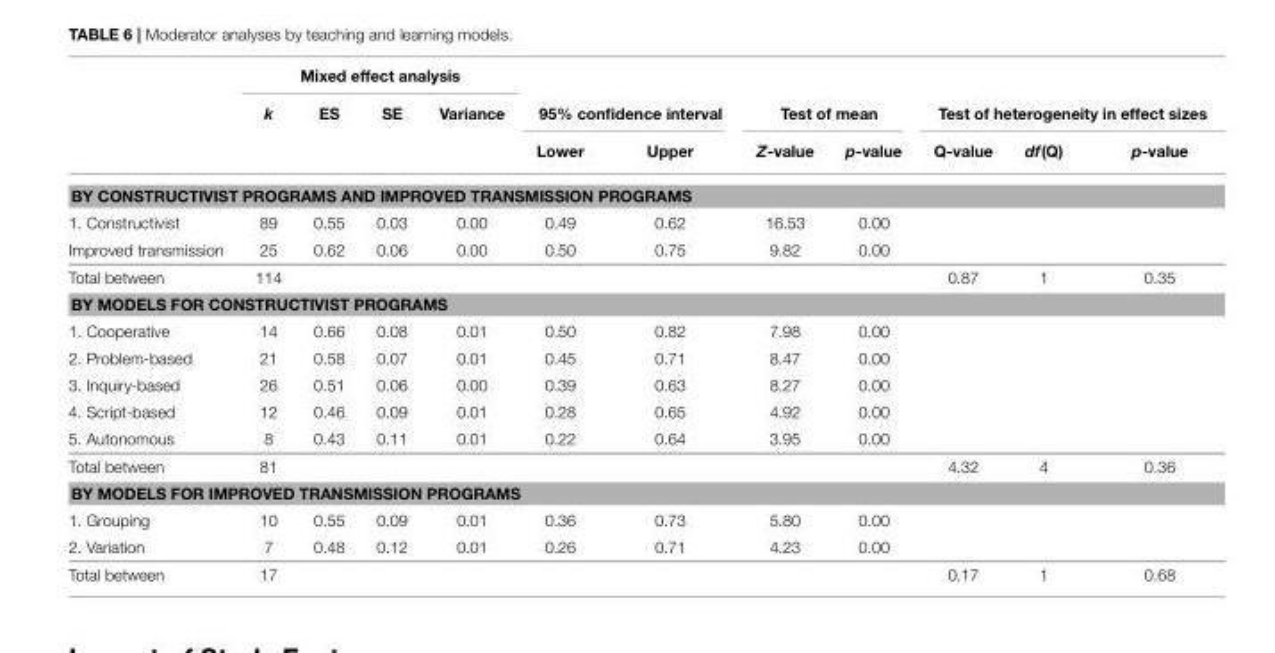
<table><thead><tr><td rowspan="3"></td><td colspan="4">Mixed effect analysis</td><td></td><td></td><td></td><td></td><td></td><td></td><td></td></tr><tr><td rowspan="2">k</td><td rowspan="2">ES</td><td rowspan="2">SE</td><td rowspan="2">Variance</td><td colspan="2">95% confidence interval</td><td colspan="2">Test of mean</td><td colspan="3">Test of heterogeneity in effect sizes</td></tr><tr><td>Lower</td><td>Upper</td><td>Z-value</td><td>p-value</td><td>Q-value</td><td>df(Q)</td><td>p-value</td></tr></thead><tbody><tr><td colspan="12">BY CONSTRUCTIVIST PROGRAMS AND IMPROVED TRANSMISSION PROGRAMS</td></tr><tr><td>1. Constructivist</td><td>89</td><td>0.55</td><td>0.03</td><td>0.00</td><td>0.49</td><td>0.62</td><td>16.53</td><td>0.00</td><td></td><td></td><td></td></tr><tr><td>Improved transmission</td><td>25</td><td>0.62</td><td>0.06</td><td>0.00</td><td>0.50</td><td>0.75</td><td>9.82</td><td>0.00</td><td></td><td></td><td></td></tr><tr><td>Total between</td><td>114</td><td></td><td></td><td></td><td></td><td></td><td></td><td></td><td>0.87</td><td>1</td><td>0.35</td></tr><tr><td colspan="12">BY MODELS FOR CONSTRUCTIVIST PROGRAMS</td></tr><tr><td>1. Cooperative</td><td>14</td><td>0.66</td><td>0.08</td><td>0.01</td><td>0.50</td><td>0.82</td><td>7.98</td><td>0.00</td><td></td><td></td><td></td></tr><tr><td>2. Problem-based</td><td>21</td><td>0.58</td><td>0.07</td><td>0.01</td><td>0.45</td><td>0.71</td><td>8.47</td><td>0.00</td><td></td><td></td><td></td></tr><tr><td>3. Inquiry-based</td><td>26</td><td>0.51</td><td>0.06</td><td>0.00</td><td>0.39</td><td>0.63</td><td>8.27</td><td>0.00</td><td></td><td></td><td></td></tr><tr><td>4. Script-based</td><td>12</td><td>0.46</td><td>0.09</td><td>0.01</td><td>0.28</td><td>0.65</td><td>4.92</td><td>0.00</td><td></td><td></td><td></td></tr><tr><td>5. Autonomous</td><td>8</td><td>0.43</td><td>0.11</td><td>0.01</td><td>0.22</td><td>0.64</td><td>3.95</td><td>0.00</td><td></td><td></td><td></td></tr><tr><td>Total between</td><td>81</td><td></td><td></td><td></td><td></td><td></td><td></td><td></td><td>4.32</td><td>4</td><td>0.36</td></tr><tr><td colspan="12">BY MODELS FOR IMPROVED TRANSMISSION PROGRAMS</td></tr><tr><td>1. Grouping</td><td>10</td><td>0.55</td><td>0.09</td><td>0.01</td><td>0.36</td><td>0.73</td><td>5.80</td><td>0.00</td><td></td><td></td><td></td></tr><tr><td>2. Variation</td><td>7</td><td>0.48</td><td>0.12</td><td>0.01</td><td>0.26</td><td>0.71</td><td>4.23</td><td>0.00</td><td></td><td></td><td></td></tr><tr><td>Total between</td><td>17</td><td></td><td></td><td></td><td></td><td></td><td></td><td></td><td>0.17</td><td>1</td><td>0.68</td></tr></tbody></table>